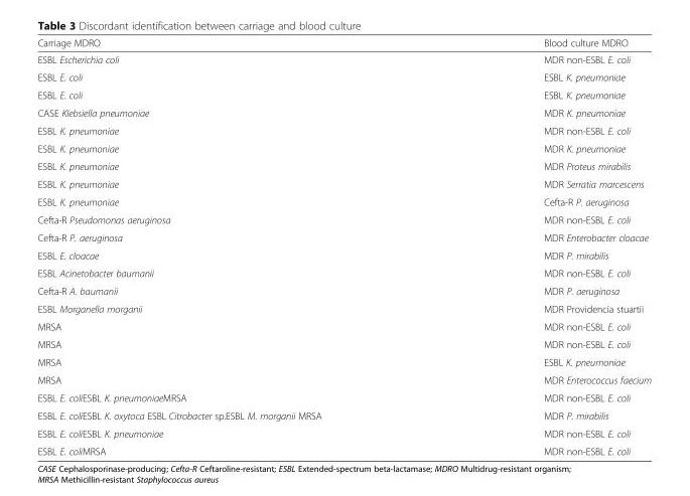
<table><thead><tr><td>Carriage MDRO</td><td>Blood culture MDRO</td></tr></thead><tbody><tr><td>ESBL Escherichia coli</td><td>MDR non-ESBL E. coli</td></tr><tr><td>ESBL E. coli</td><td>ESBL K. pneumoniae</td></tr><tr><td>ESBL E. coli</td><td>ESBL K. pneumoniae</td></tr><tr><td>CASE Klebsiella pneumoniae</td><td>MDR K. pneumoniae</td></tr><tr><td>ESBL K. pneumoniae</td><td>MDR non-ESBL E. coli</td></tr><tr><td>ESBL K. pneumoniae</td><td>MDR K. pneumoniae</td></tr><tr><td>ESBL K. pneumoniae</td><td>MDR Proteus mirabilis</td></tr><tr><td>ESBL K. pneumoniae</td><td>MDR Serratia marcescens</td></tr><tr><td>ESBL K. pneumoniae</td><td>Cefta-R P. aeruginosa</td></tr><tr><td>Cefta-R Pseudomonas aeruginosa</td><td>MDR non-ESBL E. coli</td></tr><tr><td>Cefta-R P. aeruginosa</td><td>MDR Enterobacter cloacae</td></tr><tr><td>ESBL E. cloacae</td><td>MDR P. mirabilis</td></tr><tr><td>ESBL Acinetobacter baumanii</td><td>MDR non-ESBL E. coli</td></tr><tr><td>Cefta-R A. baumanii</td><td>MDR P. aeruginosa</td></tr><tr><td>ESBL Morganella morganii</td><td>MDR Providencia stuartii</td></tr><tr><td>MRSA</td><td>MDR non-ESBL E. coli</td></tr><tr><td>MRSA</td><td>MDR non-ESBL E. coli</td></tr><tr><td>MRSA</td><td>ESBL K. pneumoniae</td></tr><tr><td>MRSA</td><td>MDR Enterococcus faecium</td></tr><tr><td>ESBL E. coliESBL K. pneumoniaeMRSA</td><td>MDR non-ESBL E. coli</td></tr><tr><td>ESBL E. coliESBL K. oxytoca ESBL Citrobacter sp.ESBL M. morganii MRSA</td><td>MDR P. mirabilis</td></tr><tr><td>ESBL E. coliESBL K. pneumoniae</td><td>MDR non-ESBL E. coli</td></tr><tr><td>ESBL E. coliMRSA</td><td>MDR non-ESBL E. coli</td></tr></tbody></table>